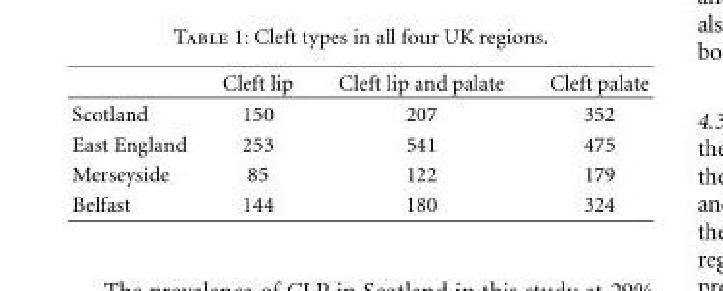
<table><thead><tr><td></td><td>Cleft lip</td><td>Cleft lip and palate</td><td>Cleft palate</td></tr></thead><tbody><tr><td>Scotland</td><td>150</td><td>207</td><td>352</td></tr><tr><td>East England</td><td>253</td><td>541</td><td>475</td></tr><tr><td>Merseyside</td><td>85</td><td>122</td><td>179</td></tr><tr><td>Belfast</td><td>144</td><td>180</td><td>324</td></tr></tbody></table>